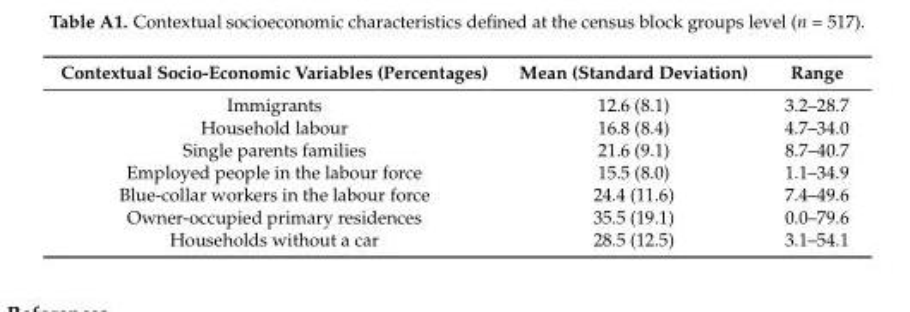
<table><thead><tr><td>Contextual Socio-Economic Variables (Percentages)</td><td>Mean (Standard Deviation)</td><td>Range</td></tr></thead><tbody><tr><td>Immigrants</td><td>12.6 (8.1)</td><td>3.2–28.7</td></tr><tr><td>Household labour</td><td>16.8 (8.4)</td><td>4.7–34.0</td></tr><tr><td>Single parents families</td><td>21.6 (9.1)</td><td>8.7–40.7</td></tr><tr><td>Employed people in the labour force</td><td>15.5 (8.0)</td><td>1.1–34.9</td></tr><tr><td>Blue-collar workers in the labour force</td><td>24.4 (11.6)</td><td>7.4–49.6</td></tr><tr><td>Owner-occupied primary residences</td><td>35.5 (19.1)</td><td>0.0–79.6</td></tr><tr><td>Households without a car</td><td>28.5 (12.5)</td><td>3.1–54.1</td></tr></tbody></table>